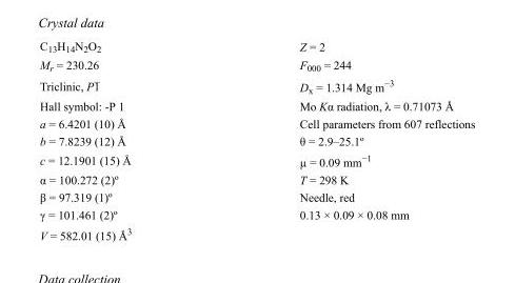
<table><tbody><tr><td>C<sub>13</sub>H<sub>14</sub>N<sub>2</sub>O<sub>2</sub></td><td>Z = 2</td></tr><tr><td>M<sub>r</sub> = 230.26</td><td>F000 = 244</td></tr><tr><td>Triclinic, P1</td><td>D<sub>x</sub> = 1.314 Mg m<sup>−3</sup></td></tr><tr><td>Hall symbol: -P 1</td><td>Mo Kα radiation, λ = 0.71073 Å</td></tr><tr><td>a = 6.4201 (10) Å</td><td>Cell parameters from 607 reflections</td></tr><tr><td>b = 7.8239 (12) Å</td><td>θ = 2.9–25.1º</td></tr><tr><td>c = 12.1901 (15) Å</td><td>µ = 0.09 mm<sup>−1</sup></td></tr><tr><td>α = 100.272 (2)º</td><td>T = 298 K</td></tr><tr><td>β = 97.319 (1)º</td><td>Needle, red</td></tr><tr><td>γ = 101.461 (2)º</td><td>0.13 × 0.09 × 0.08 mm</td></tr><tr><td>V = 582.01 (15) Å<sup>3</sup></td><td></td></tr></tbody></table>